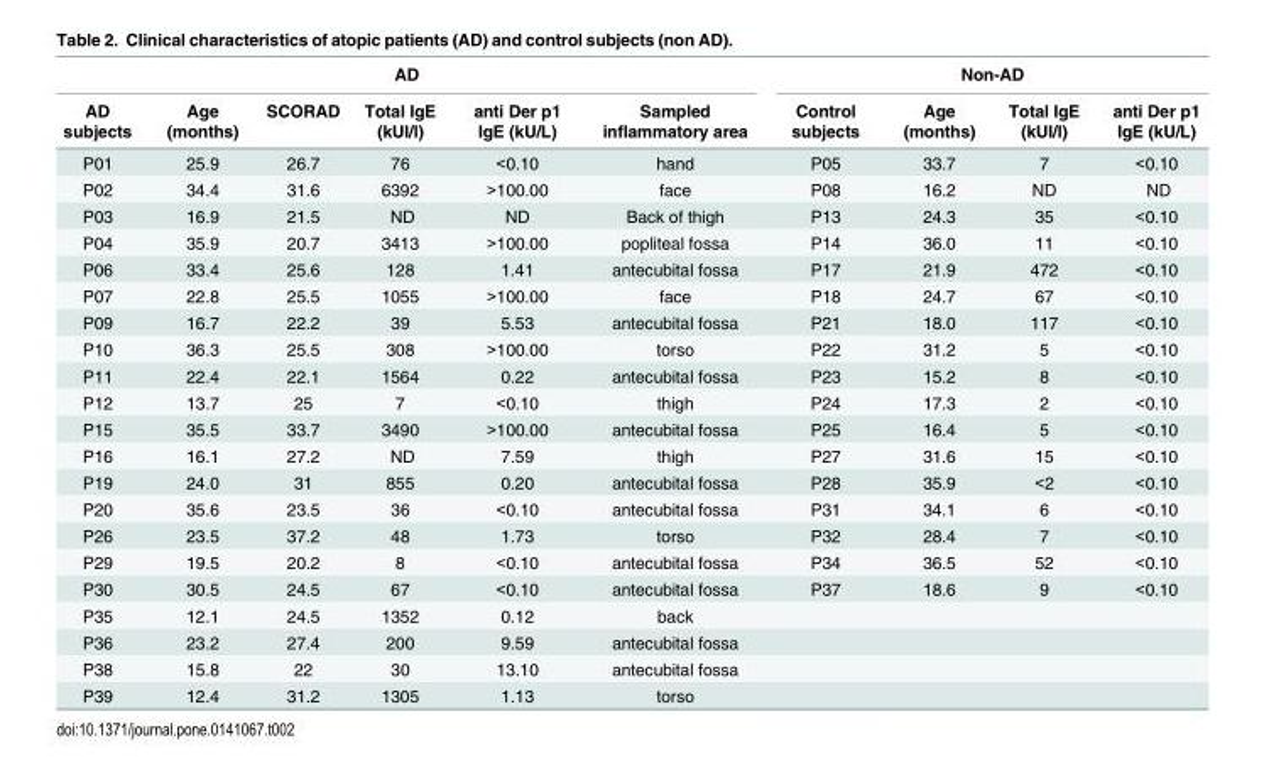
<table><thead><tr><td colspan="6">AD</td><td colspan="4">Non-AD</td></tr><tr><td>AD subjects</td><td>Age (months)</td><td>SCORAD</td><td>Total IgE (kUI/l)</td><td>anti Der p1 IgE (kU/L)</td><td>Sampled inflammatory area</td><td>Control subjects</td><td>Age (months)</td><td>Total IgE (kUI/l)</td><td>anti Der p1 IgE (kU/L)</td></tr></thead><tbody><tr><td>P01</td><td>25.9</td><td>26.7</td><td>76</td><td>&lt;0.10</td><td>hand</td><td>P05</td><td>33.7</td><td>7</td><td>&lt;0.10</td></tr><tr><td>P02</td><td>34.4</td><td>31.6</td><td>6392</td><td>&gt;100.00</td><td>face</td><td>P08</td><td>16.2</td><td>ND</td><td>ND</td></tr><tr><td>P03</td><td>16.9</td><td>21.5</td><td>ND</td><td>ND</td><td>Back of thigh</td><td>P13</td><td>24.3</td><td>35</td><td>&lt;0.10</td></tr><tr><td>P04</td><td>35.9</td><td>20.7</td><td>3413</td><td>&gt;100.00</td><td>popliteal fossa</td><td>P14</td><td>36.0</td><td>11</td><td>&lt;0.10</td></tr><tr><td>P06</td><td>33.4</td><td>25.6</td><td>128</td><td>1.41</td><td>antecubital fossa</td><td>P17</td><td>21.9</td><td>472</td><td>&lt;0.10</td></tr><tr><td>P07</td><td>22.8</td><td>25.5</td><td>1055</td><td>&gt;100.00</td><td>face</td><td>P18</td><td>24.7</td><td>67</td><td>&lt;0.10</td></tr><tr><td>P09</td><td>16.7</td><td>22.2</td><td>39</td><td>5.53</td><td>antecubital fossa</td><td>P21</td><td>18.0</td><td>117</td><td>&lt;0.10</td></tr><tr><td>P10</td><td>36.3</td><td>25.5</td><td>308</td><td>&gt;100.00</td><td>torso</td><td>P22</td><td>31.2</td><td>5</td><td>&lt;0.10</td></tr><tr><td>P11</td><td>22.4</td><td>22.1</td><td>1564</td><td>0.22</td><td>antecubital fossa</td><td>P23</td><td>15.2</td><td>8</td><td>&lt;0.10</td></tr><tr><td>P12</td><td>13.7</td><td>25</td><td>7</td><td>&lt;0.10</td><td>thigh</td><td>P24</td><td>17.3</td><td>2</td><td>&lt;0.10</td></tr><tr><td>P15</td><td>35.5</td><td>33.7</td><td>3490</td><td>&gt;100.00</td><td>antecubital fossa</td><td>P25</td><td>16.4</td><td>5</td><td>&lt;0.10</td></tr><tr><td>P16</td><td>16.1</td><td>27.2</td><td>ND</td><td>7.59</td><td>thigh</td><td>P27</td><td>31.6</td><td>15</td><td>&lt;0.10</td></tr><tr><td>P19</td><td>24.0</td><td>31</td><td>855</td><td>0.20</td><td>antecubital fossa</td><td>P28</td><td>35.9</td><td>&lt;2</td><td>&lt;0.10</td></tr><tr><td>P20</td><td>35.6</td><td>23.5</td><td>36</td><td>&lt;0.10</td><td>antecubital fossa</td><td>P31</td><td>34.1</td><td>6</td><td>&lt;0.10</td></tr><tr><td>P26</td><td>23.5</td><td>37.2</td><td>48</td><td>1.73</td><td>torso</td><td>P32</td><td>28.4</td><td>7</td><td>&lt;0.10</td></tr><tr><td>P29</td><td>19.5</td><td>20.2</td><td>8</td><td>&lt;0.10</td><td>antecubital fossa</td><td>P34</td><td>36.5</td><td>52</td><td>&lt;0.10</td></tr><tr><td>P30</td><td>30.5</td><td>24.5</td><td>67</td><td>&lt;0.10</td><td>antecubital fossa</td><td>P37</td><td>18.6</td><td>9</td><td>&lt;0.10</td></tr><tr><td>P35</td><td>12.1</td><td>24.5</td><td>1352</td><td>0.12</td><td>back</td><td></td><td></td><td></td><td></td></tr><tr><td>P36</td><td>23.2</td><td>27.4</td><td>200</td><td>9.59</td><td>antecubital fossa</td><td></td><td></td><td></td><td></td></tr><tr><td>P38</td><td>15.8</td><td>22</td><td>30</td><td>13.10</td><td>antecubital fossa</td><td></td><td></td><td></td><td></td></tr><tr><td>P39</td><td>12.4</td><td>31.2</td><td>1305</td><td>1.13</td><td>torso</td><td></td><td></td><td></td><td></td></tr></tbody></table>